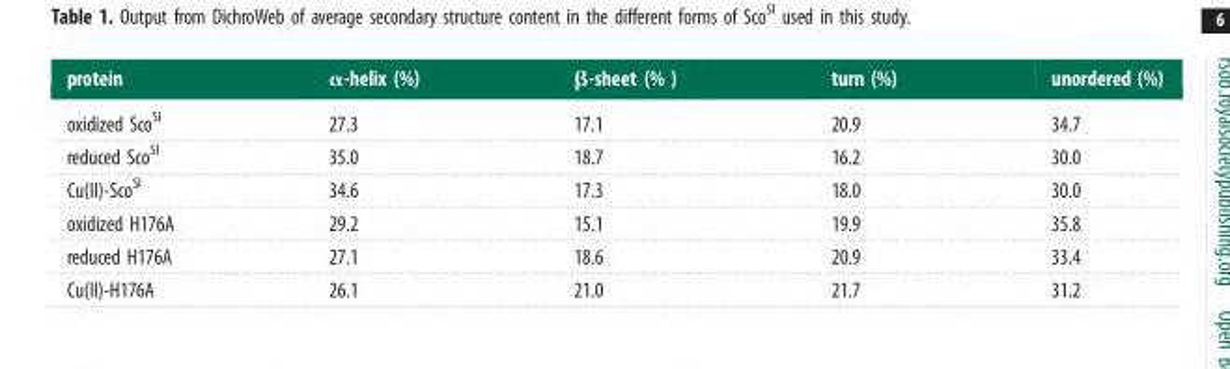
<table><thead><tr><td>protein</td><td>α-helix (%)</td><td>β-sheet (% )</td><td>turn (%)</td><td>unordered (%)</td></tr></thead><tbody><tr><td>oxidized Sco<sup>Sl</sup></td><td>27.3</td><td>17.1</td><td>20.9</td><td>34.7</td></tr><tr><td>reduced Sco<sup>Sl</sup></td><td>35.0</td><td>18.7</td><td>16.2</td><td>30.0</td></tr><tr><td>Cu(II)-Sco<sup>Sl</sup></td><td>34.6</td><td>17.3</td><td>18.0</td><td>30.0</td></tr><tr><td>oxidized H176A</td><td>29.2</td><td>15.1</td><td>19.9</td><td>35.8</td></tr><tr><td>reduced H176A</td><td>27.1</td><td>18.6</td><td>20.9</td><td>33.4</td></tr><tr><td>Cu(II)-H176A</td><td>26.1</td><td>21.0</td><td>21.7</td><td>31.2</td></tr></tbody></table>